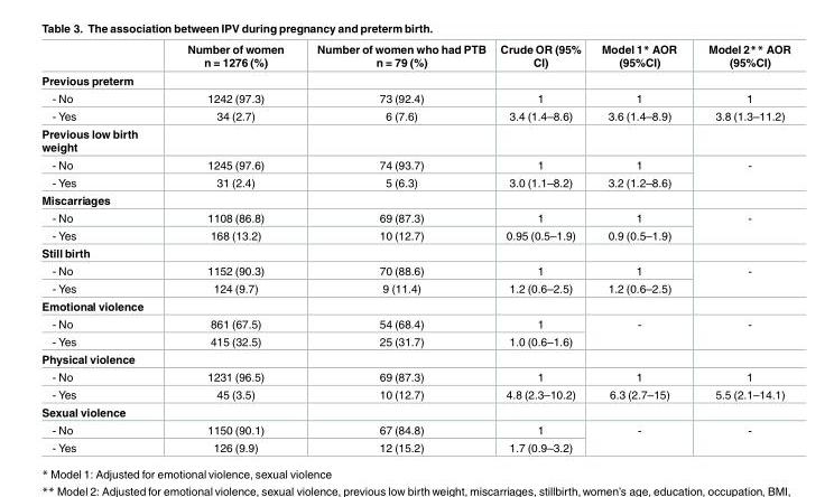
<table><thead><tr><td></td><td>Number of women n = 1276 (%)</td><td>Number of women who had PTB n = 79 (%)</td><td>Crude OR (95% CI)</td><td>Model 1* AOR (95%CI)</td><td>Model 2** AOR (95%CI)</td></tr></thead><tbody><tr><td colspan="6">Previous preterm</td></tr><tr><td>- No</td><td>1242 (97.3)</td><td>73 (92.4)</td><td>1</td><td>1</td><td>1</td></tr><tr><td>- Yes</td><td>34 (2.7)</td><td>6 (7.6)</td><td>3.4 (1.4–8.6)</td><td>3.6 (1.4–8.9)</td><td>3.8 (1.3–11.2)</td></tr><tr><td colspan="6">Previous low birth weight</td></tr><tr><td>- No</td><td>1245 (97.6)</td><td>74 (93.7)</td><td>1</td><td>1</td><td rowspan="2">-</td></tr><tr><td>- Yes</td><td>31 (2.4)</td><td>5 (6.3)</td><td>3.0 (1.1–8.2)</td><td>3.2 (1.2–8.6)</td></tr><tr><td colspan="6">Miscarriages</td></tr><tr><td>- No</td><td>1108 (86.8)</td><td>69 (87.3)</td><td>1</td><td>1</td><td rowspan="2">-</td></tr><tr><td>- Yes</td><td>168 (13.2)</td><td>10 (12.7)</td><td>0.95 (0.5–1.9)</td><td>0.9 (0.5–1.9)</td></tr><tr><td colspan="6">Still birth</td></tr><tr><td>- No</td><td>1152 (90.3)</td><td>70 (88.6)</td><td>1</td><td>1</td><td rowspan="2">-</td></tr><tr><td>- Yes</td><td>124 (9.7)</td><td>9 (11.4)</td><td>1.2 (0.6–2.5)</td><td>1.2 (0.6–2.5)</td></tr><tr><td colspan="6">Emotional violence</td></tr><tr><td>- No</td><td>861 (67.5)</td><td>54 (68.4)</td><td>1</td><td rowspan="2">-</td><td rowspan="2">-</td></tr><tr><td>- Yes</td><td>415 (32.5)</td><td>25 (31.7)</td><td>1.0 (0.6–1.6)</td></tr><tr><td colspan="6">Physical violence</td></tr><tr><td>- No</td><td>1231 (96.5)</td><td>69 (87.3)</td><td>1</td><td>1</td><td>1</td></tr><tr><td>- Yes</td><td>45 (3.5)</td><td>10 (12.7)</td><td>4.8 (2.3–10.2)</td><td>6.3 (2.7–15)</td><td>5.5 (2.1–14.1)</td></tr><tr><td colspan="6">Sexual violence</td></tr><tr><td>- No</td><td>1150 (90.1)</td><td>67 (84.8)</td><td>1</td><td rowspan="2">-</td><td rowspan="2">-</td></tr><tr><td>- Yes</td><td>126 (9.9)</td><td>12 (15.2)</td><td>1.7 (0.9–3.2)</td></tr></tbody></table>